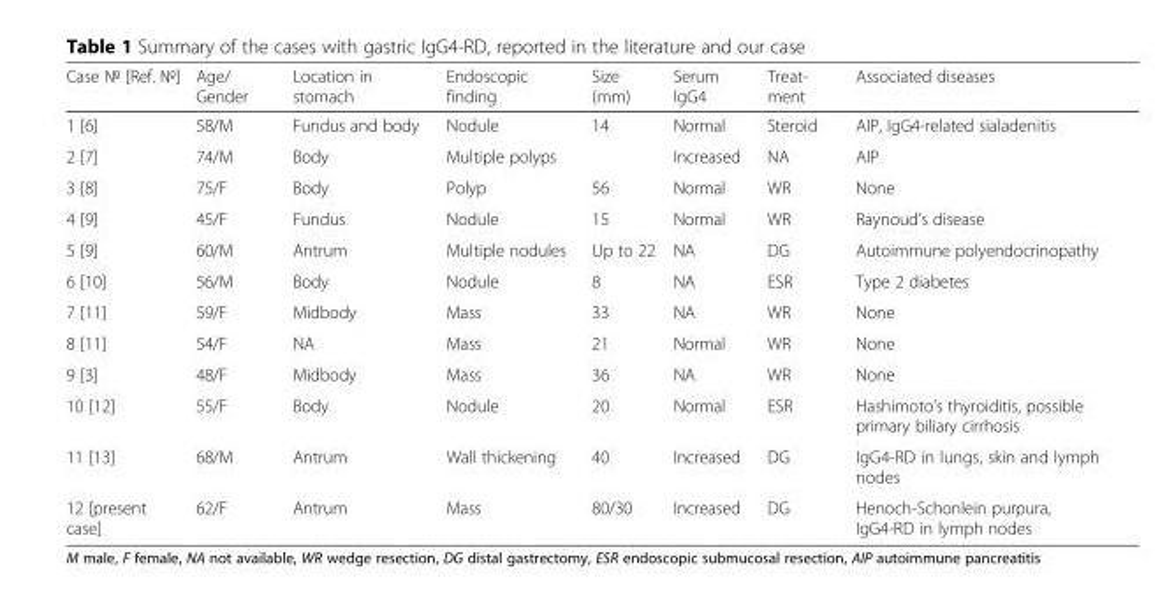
<table><thead><tr><td>Case № [Ref. №]</td><td>Age/ Gender</td><td>Location in stomach</td><td>Endoscopic finding</td><td>Size (mm)</td><td>Serum IgG4</td><td>Treat- ment</td><td>Associated diseases</td></tr></thead><tbody><tr><td>1 [6]</td><td>58/M</td><td>Fundus and body</td><td>Nodule</td><td>14</td><td>Normal</td><td>Steroid</td><td>AIP, IgG4-related sialadenitis</td></tr><tr><td>2 [7]</td><td>74/M</td><td>Body</td><td>Multiple polyps</td><td></td><td>Increased</td><td>NA</td><td>AIP</td></tr><tr><td>3 [8]</td><td>75/F</td><td>Body</td><td>Polyp</td><td>56</td><td>Normal</td><td>WR</td><td>None</td></tr><tr><td>4 [9]</td><td>45/F</td><td>Fundus</td><td>Nodule</td><td>15</td><td>Normal</td><td>WR</td><td>Raynoud’s disease</td></tr><tr><td>5 [9]</td><td>60/M</td><td>Antrum</td><td>Multiple nodules</td><td>Up to 22</td><td>NA</td><td>DG</td><td>Autoimmune polyendocrinopathy</td></tr><tr><td>6 [10]</td><td>56/M</td><td>Body</td><td>Nodule</td><td>8</td><td>NA</td><td>ESR</td><td>Type 2 diabetes</td></tr><tr><td>7 [11]</td><td>59/F</td><td>Midbody</td><td>Mass</td><td>33</td><td>NA</td><td>WR</td><td>None</td></tr><tr><td>8 [11]</td><td>54/F</td><td>NA</td><td>Mass</td><td>21</td><td>Normal</td><td>WR</td><td>None</td></tr><tr><td>9 [3]</td><td>48/F</td><td>Midbody</td><td>Mass</td><td>36</td><td>NA</td><td>WR</td><td>None</td></tr><tr><td>10 [12]</td><td>55/F</td><td>Body</td><td>Nodule</td><td>20</td><td>Normal</td><td>ESR</td><td>Hashimoto’s thyroiditis, possible primary biliary cirrhosis</td></tr><tr><td>11 [13]</td><td>68/M</td><td>Antrum</td><td>Wall thickening</td><td>40</td><td>Increased</td><td>DG</td><td>IgG4-RD in lungs, skin and lymph nodes</td></tr><tr><td>12 [present case]</td><td>62/F</td><td>Antrum</td><td>Mass</td><td>80/30</td><td>Increased</td><td>DG</td><td>Henoch-Schonlein purpura, IgG4-RD in lymph nodes</td></tr></tbody></table>